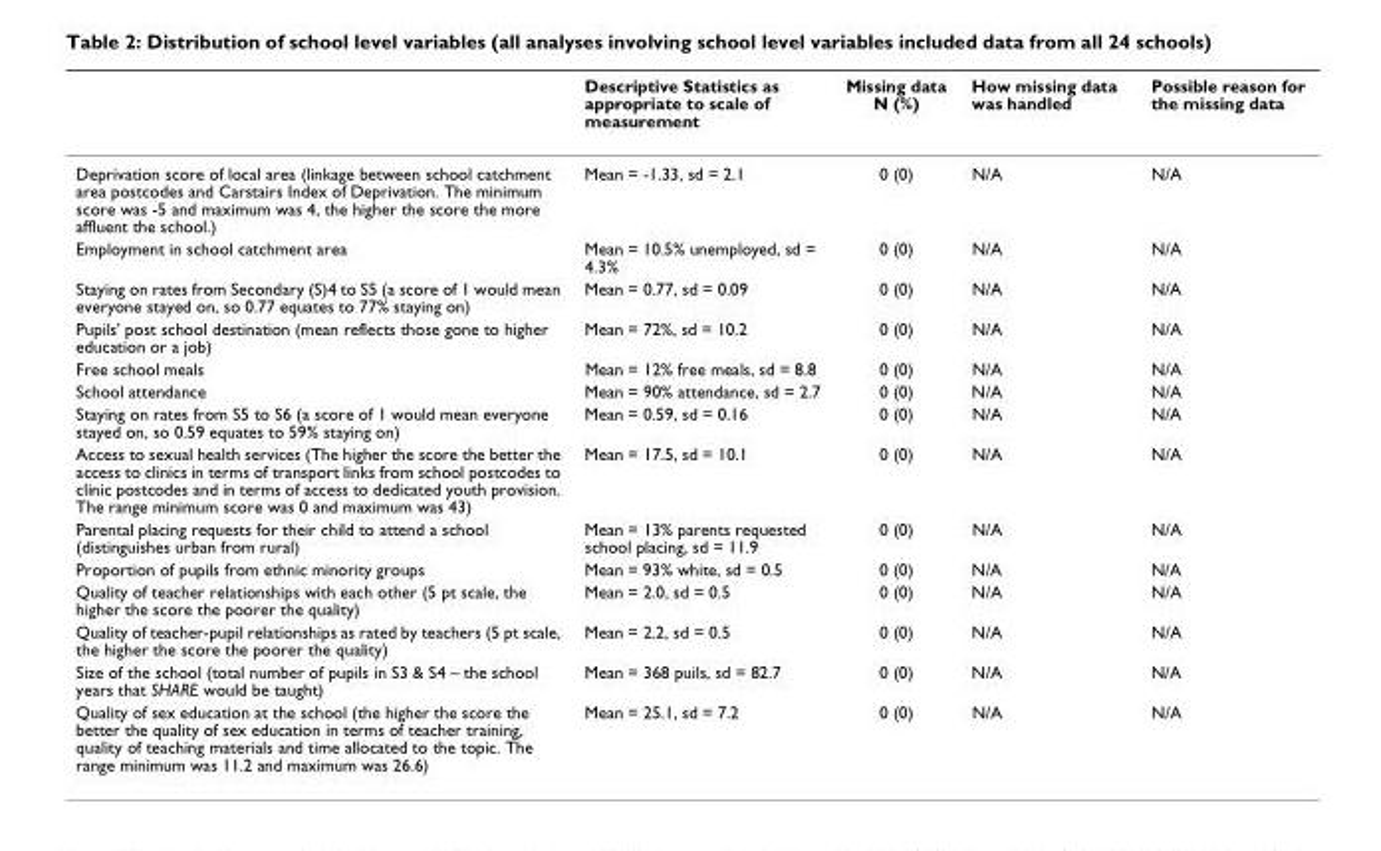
<table><thead><tr><td></td><td>Descriptive Statistics as appropriate to scale of measurement</td><td>Missing data N (%)</td><td>How missing data was handled</td><td>Possible reason for the missing data</td></tr></thead><tbody><tr><td>Deprivation score of local area (linkage between school catchment area postcodes and Carstairs Index of Deprivation. The minimum score was -5 and maximum was 4, the higher the score the more affluent the school.)</td><td>Mean = -1.33, sd = 2.1</td><td>0 (0)</td><td>N/A</td><td>N/A</td></tr><tr><td>Employment in school catchment area</td><td>Mean = 10.5% unemployed, sd = 4.3%</td><td>0 (0)</td><td>N/A</td><td>N/A</td></tr><tr><td>Staying on rates from Secondary (S)4 to S5 (a score of 1 would mean everyone stayed on, so 0.77 equates to 77% staying on)</td><td>Mean = 0.77, sd = 0.09</td><td>0 (0)</td><td>N/A</td><td>N/A</td></tr><tr><td>Pupils&#x27; post school destination (mean reflects those gone to higher education or a job)</td><td>Mean = 72%, sd = 10.2</td><td>0 (0)</td><td>N/A</td><td>N/A</td></tr><tr><td>Free school meals</td><td>Mean = 12% free meals, sd = 8.8</td><td>0 (0)</td><td>N/A</td><td>N/A</td></tr><tr><td>School attendance</td><td>Mean = 90% attendance, sd = 2.7</td><td>0 (0)</td><td>N/A</td><td>N/A</td></tr><tr><td>Staying on rates from S5 to S6 (a score of 1 would mean everyone stayed on, so 0.59 equates to 59% staying on)</td><td>Mean = 0.59, sd = 0.16</td><td>0 (0)</td><td>N/A</td><td>N/A</td></tr><tr><td>Access to sexual health services (The higher the score the better the access to clinics in terms of transport links from school postcodes to clinic postcodes and in terms of access to dedicated youth provision. The range minimum score was 0 and maximum was 43)</td><td>Mean = 17.5, sd = 10.1</td><td>0 (0)</td><td>N/A</td><td>N/A</td></tr><tr><td>Parental placing requests for their child to attend a school (distinguishes urban from rural)</td><td>Mean = 13% parents requested school placing, sd = 11.9</td><td>0 (0)</td><td>N/A</td><td>N/A</td></tr><tr><td>Proportion of pupils from ethnic minority groups</td><td>Mean = 93% white, sd = 0.5</td><td>0 (0)</td><td>N/A</td><td>N/A</td></tr><tr><td>Quality of teacher relationships with each other (5 pt scale, the higher the score the poorer the quality)</td><td>Mean = 2.0, sd = 0.5</td><td>0 (0)</td><td>N/A</td><td>N/A</td></tr><tr><td>Quality of teacher-pupil relationships as rated by teachers (5 pt scale, the higher the score the poorer the quality)</td><td>Mean = 2.2, sd = 0.5</td><td>0 (0)</td><td>N/A</td><td>N/A</td></tr><tr><td>Size of the school (total number of pupils in S3 &amp; S4 – the school years that SHARE would be taught)</td><td>Mean = 368 puils, sd = 82.7</td><td>0 (0)</td><td>N/A</td><td>N/A</td></tr><tr><td>Quality of sex education at the school (the higher the score the better the quality of sex education in terms of teacher training, quality of teaching materials and time allocated to the topic. The range minimum was 11.2 and maximum was 26.6)</td><td>Mean = 25.1, sd = 7.2</td><td>0 (0)</td><td>N/A</td><td>N/A</td></tr></tbody></table>